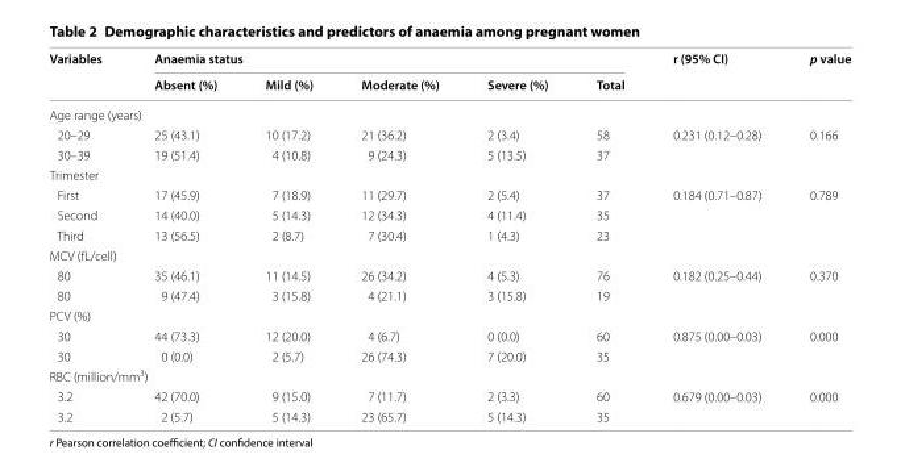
<table><thead><tr><td rowspan="2">Variables</td><td colspan="5">Anaemia status</td><td rowspan="2">r (95% CI)</td><td rowspan="2">p value</td></tr><tr><td>Absent (%)</td><td>Mild (%)</td><td>Moderate (%)</td><td>Severe (%)</td><td>Total</td></tr></thead><tbody><tr><td colspan="8">Age range (years)</td></tr><tr><td>20–29</td><td>25 (43.1)</td><td>10 (17.2)</td><td>21 (36.2)</td><td>2 (3.4)</td><td>58</td><td rowspan="2">0.231 (0.12–0.28)</td><td rowspan="2">0.166</td></tr><tr><td>30–39</td><td>19 (51.4)</td><td>4 (10.8)</td><td>9 (24.3)</td><td>5 (13.5)</td><td>37</td></tr><tr><td colspan="8">Trimester</td></tr><tr><td>First</td><td>17 (45.9)</td><td>7 (18.9)</td><td>11 (29.7)</td><td>2 (5.4)</td><td>37</td><td rowspan="3">0.184 (0.71–0.87)</td><td rowspan="3">0.789</td></tr><tr><td>Second</td><td>14 (40.0)</td><td>5 (14.3)</td><td>12 (34.3)</td><td>4 (11.4)</td><td>35</td></tr><tr><td>Third</td><td>13 (56.5)</td><td>2 (8.7)</td><td>7 (30.4)</td><td>1 (4.3)</td><td>23</td></tr><tr><td colspan="8">MCV (fL/cell)</td></tr><tr><td>80</td><td>35 (46.1)</td><td>11 (14.5)</td><td>26 (34.2)</td><td>4 (5.3)</td><td>76</td><td rowspan="2">0.182 (0.25–0.44)</td><td rowspan="2">0.370</td></tr><tr><td>80</td><td>9 (47.4)</td><td>3 (15.8)</td><td>4 (21.1)</td><td>3 (15.8)</td><td>19</td></tr><tr><td colspan="8">PCV (%)</td></tr><tr><td>30</td><td>44 (73.3)</td><td>12 (20.0)</td><td>4 (6.7)</td><td>0 (0.0)</td><td>60</td><td rowspan="2">0.875 (0.00–0.03)</td><td rowspan="2">0.000</td></tr><tr><td>30</td><td>0 (0.0)</td><td>2 (5.7)</td><td>26 (74.3)</td><td>7 (20.0)</td><td>35</td></tr><tr><td colspan="8">RBC (million/mm<sup>3</sup>)</td></tr><tr><td>3.2</td><td>42 (70.0)</td><td>9 (15.0)</td><td>7 (11.7)</td><td>2 (3.3)</td><td>60</td><td rowspan="2">0.679 (0.00–0.03)</td><td rowspan="2">0.000</td></tr><tr><td>3.2</td><td>2 (5.7)</td><td>5 (14.3)</td><td>23 (65.7)</td><td>5 (14.3)</td><td>35</td></tr></tbody></table>